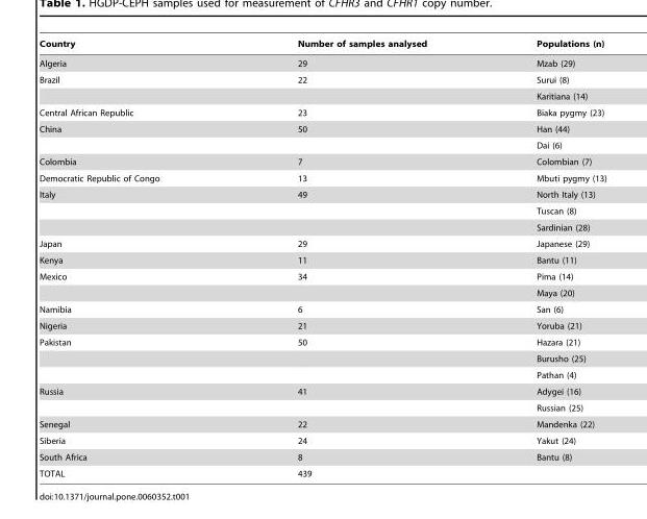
<table><thead><tr><td>Country</td><td>Number of samples analysed</td><td>Populations (n)</td></tr></thead><tbody><tr><td>Algeria</td><td>29</td><td>Mzab (29)</td></tr><tr><td rowspan="2">Brazil</td><td>22</td><td>Surui (8)</td></tr><tr><td></td><td>Karitiana (14)</td></tr><tr><td>Central African Republic</td><td>23</td><td>Biaka pygmy (23)</td></tr><tr><td rowspan="2">China</td><td>50</td><td>Han (44)</td></tr><tr><td></td><td>Dai (6)</td></tr><tr><td>Colombia</td><td>7</td><td>Colombian (7)</td></tr><tr><td>Democratic Republic of Congo</td><td>13</td><td>Mbuti pygmy (13)</td></tr><tr><td rowspan="3">Italy</td><td>49</td><td>North Italy (13)</td></tr><tr><td></td><td>Tuscan (8)</td></tr><tr><td></td><td>Sardinian (28)</td></tr><tr><td>Japan</td><td>29</td><td>Japanese (29)</td></tr><tr><td>Kenya</td><td>11</td><td>Bantu (11)</td></tr><tr><td rowspan="2">Mexico</td><td>34</td><td>Pima (14)</td></tr><tr><td></td><td>Maya (20)</td></tr><tr><td>Namibia</td><td>6</td><td>San (6)</td></tr><tr><td>Nigeria</td><td>21</td><td>Yoruba (21)</td></tr><tr><td rowspan="3">Pakistan</td><td>50</td><td>Hazara (21)</td></tr><tr><td></td><td>Burusho (25)</td></tr><tr><td></td><td>Pathan (4)</td></tr><tr><td rowspan="2">Russia</td><td>41</td><td>Adygei (16)</td></tr><tr><td></td><td>Russian (25)</td></tr><tr><td>Senegal</td><td>22</td><td>Mandenka (22)</td></tr><tr><td>Siberia</td><td>24</td><td>Yakut (24)</td></tr><tr><td>South Africa</td><td>8</td><td>Bantu (8)</td></tr><tr><td>TOTAL</td><td>439</td><td></td></tr></tbody></table>